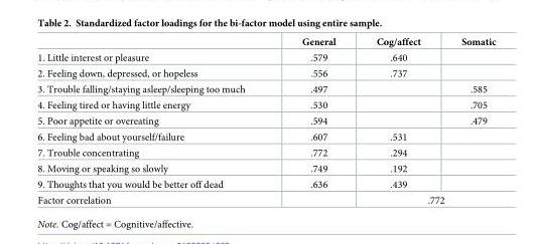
<table><thead><tr><td></td><td>General</td><td>Cog/affect</td><td>Somatic</td></tr></thead><tbody><tr><td>1. Little interest or pleasure</td><td>.579</td><td>.640</td><td></td></tr><tr><td>2. Feeling down, depressed, or hopeless</td><td>.556</td><td>.737</td><td></td></tr><tr><td>3. Trouble falling/staying asleep/sleeping too much</td><td>.497</td><td></td><td>.585</td></tr><tr><td>4. Feeling tired or having little energy</td><td>.530</td><td></td><td>.705</td></tr><tr><td>5. Poor appetite or overeating</td><td>.594</td><td></td><td>.479</td></tr><tr><td>6. Feeling bad about yourself/failure</td><td>.607</td><td>.531</td><td></td></tr><tr><td>7. Trouble concentrating</td><td>.772</td><td>.294</td><td></td></tr><tr><td>8. Moving or speaking so slowly</td><td>.749</td><td>.192</td><td></td></tr><tr><td>9. Thoughts that you would be better off dead</td><td>.636</td><td>.439</td><td></td></tr><tr><td>Factor correlation</td><td></td><td colspan="2">.772</td></tr></tbody></table>